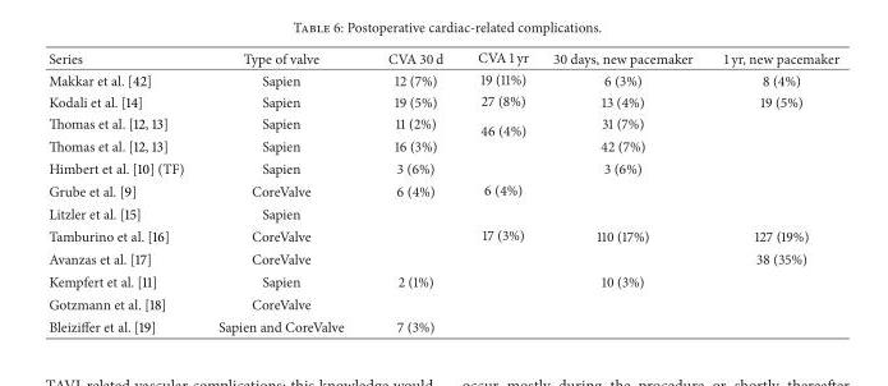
<table><thead><tr><td>Series</td><td>Type of valve</td><td>CVA 30 d</td><td>CVA 1 yr</td><td>30 days, new pacemaker</td><td>1 yr, new pacemaker</td></tr></thead><tbody><tr><td>Makkar et al. [42]</td><td>Sapien</td><td>12 (7%)</td><td>19 (11%)</td><td>6 (3%)</td><td>8 (4%)</td></tr><tr><td>Kodali et al. [14]</td><td>Sapien</td><td>19 (5%)</td><td>27 (8%)</td><td>13 (4%)</td><td>19 (5%)</td></tr><tr><td>Thomas et al. [12, 13]</td><td>Sapien</td><td>11 (2%)</td><td rowspan="2">46 (4%)</td><td>31 (7%)</td><td></td></tr><tr><td>Thomas et al. [12, 13]</td><td>Sapien</td><td>16 (3%)</td><td>42 (7%)</td><td></td></tr><tr><td>Himbert et al. [10] (TF)</td><td>Sapien</td><td>3 (6%)</td><td></td><td>3 (6%)</td><td></td></tr><tr><td>Grube et al. [9]</td><td>CoreValve</td><td>6 (4%)</td><td>6 (4%)</td><td></td><td></td></tr><tr><td>Litzler et al. [15]</td><td>Sapien</td><td></td><td></td><td></td><td></td></tr><tr><td>Tamburino et al. [16]</td><td>CoreValve</td><td></td><td>17 (3%)</td><td>110 (17%)</td><td>127 (19%)</td></tr><tr><td>Avanzas et al. [17]</td><td>CoreValve</td><td></td><td></td><td></td><td>38 (35%)</td></tr><tr><td>Kempfert et al. [11]</td><td>Sapien</td><td>2 (1%)</td><td></td><td>10 (3%)</td><td></td></tr><tr><td>Gotzmann et al. [18]</td><td>CoreValve</td><td></td><td></td><td></td><td></td></tr><tr><td>Bleiziffer et al. [19]</td><td>Sapien and CoreValve</td><td>7 (3%)</td><td></td><td></td><td></td></tr></tbody></table>